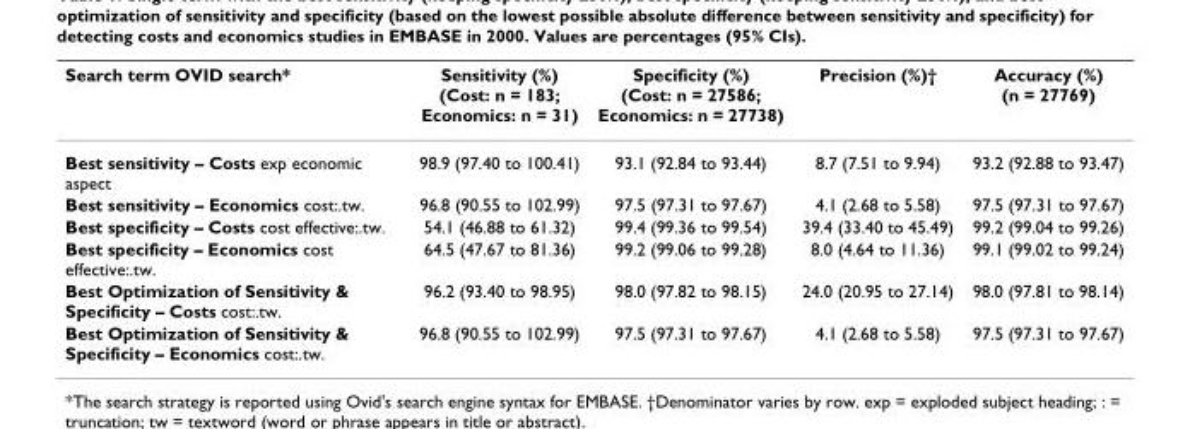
<table><thead><tr><td>Search term OVID search*</td><td>Sensitivity (%) (Cost: n = 183; Economics: n = 31)</td><td>Specificity (%) (Cost: n = 27586; Economics: n = 27738)</td><td>Precision (%)†</td><td>Accuracy (%) (n = 27769)</td></tr></thead><tbody><tr><td>Best sensitivity – Costs exp economic aspect</td><td>98.9 (97.40 to 100.41)</td><td>93.1 (92.84 to 93.44)</td><td>8.7 (7.51 to 9.94)</td><td>93.2 (92.88 to 93.47)</td></tr><tr><td>Best sensitivity – Economics cost:.tw.</td><td>96.8 (90.55 to 102.99)</td><td>97.5 (97.31 to 97.67)</td><td>4.1 (2.68 to 5.58)</td><td>97.5 (97.31 to 97.67)</td></tr><tr><td>Best specificity – Costs cost effective:.tw.</td><td>54.1 (46.88 to 61.32)</td><td>99.4 (99.36 to 99.54)</td><td>39.4 (33.40 to 45.49)</td><td>99.2 (99.04 to 99.26)</td></tr><tr><td>Best specificity – Economics cost effective:.tw.</td><td>64.5 (47.67 to 81.36)</td><td>99.2 (99.06 to 99.28)</td><td>8.0 (4.64 to 11.36)</td><td>99.1 (99.02 to 99.24)</td></tr><tr><td>Best Optimization of Sensitivity &amp; Specificity – Costs cost:.tw.</td><td>96.2 (93.40 to 98.95)</td><td>98.0 (97.82 to 98.15)</td><td>24.0 (20.95 to 27.14)</td><td>98.0 (97.81 to 98.14)</td></tr><tr><td>Best Optimization of Sensitivity &amp; Specificity – Economics cost:.tw.</td><td>96.8 (90.55 to 102.99)</td><td>97.5 (97.31 to 97.67)</td><td>4.1 (2.68 to 5.58)</td><td>97.5 (97.31 to 97.67)</td></tr></tbody></table>